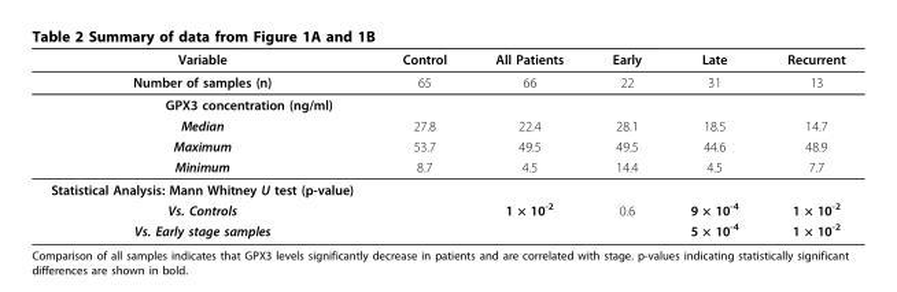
<table><thead><tr><td>Variable</td><td>Control</td><td>All Patients</td><td>Early</td><td>Late</td><td>Recurrent</td></tr></thead><tbody><tr><td>Number of samples (n)</td><td>65</td><td>66</td><td>22</td><td>31</td><td>13</td></tr><tr><td colspan="6">GPX3 concentration (ng/ml)</td></tr><tr><td>Median</td><td>27.8</td><td>22.4</td><td>28.1</td><td>18.5</td><td>14.7</td></tr><tr><td>Maximum</td><td>53.7</td><td>49.5</td><td>49.5</td><td>44.6</td><td>48.9</td></tr><tr><td>Minimum</td><td>8.7</td><td>4.5</td><td>14.4</td><td>4.5</td><td>7.7</td></tr><tr><td colspan="6">Statistical Analysis: Mann Whitney U test (p-value)</td></tr><tr><td>Vs. Controls</td><td></td><td>1 × 10<sup>-2</sup></td><td>0.6</td><td>9 × 10<sup>-4</sup></td><td>1 × 10<sup>-2</sup></td></tr><tr><td>Vs. Early stage samples</td><td></td><td></td><td></td><td>5 × 10<sup>-4</sup></td><td>1 × 10<sup>-2</sup></td></tr></tbody></table>